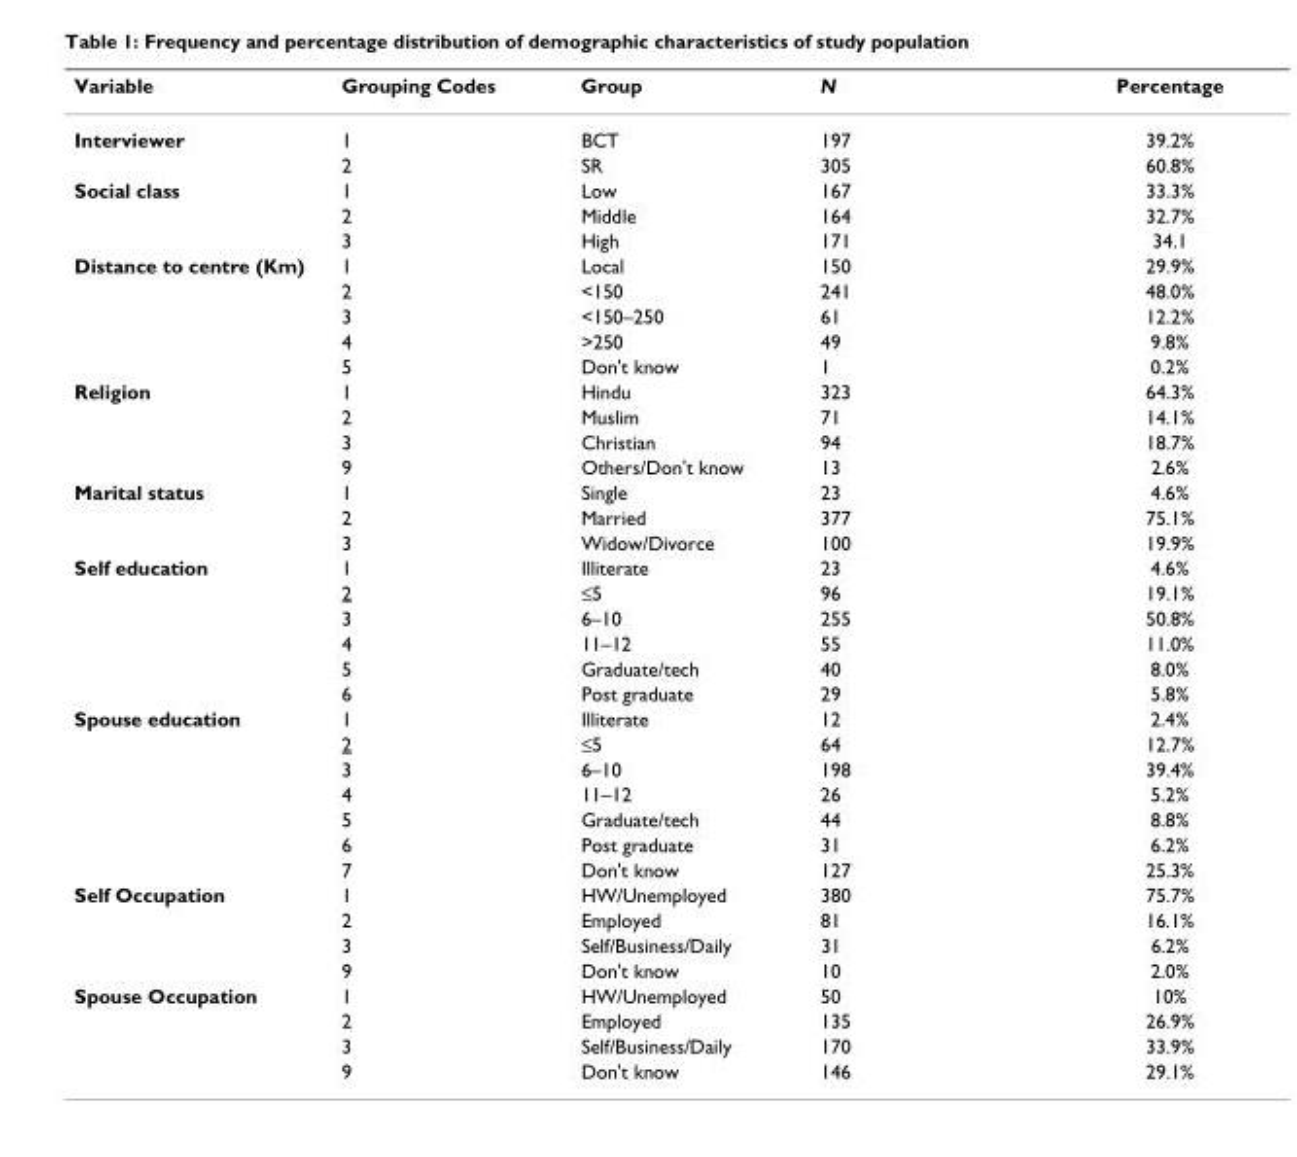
<table><thead><tr><td>Variable</td><td>Grouping Codes</td><td>Group</td><td>N</td><td>Percentage</td></tr></thead><tbody><tr><td rowspan="2">Interviewer</td><td>1</td><td>BCT</td><td>197</td><td>39.2%</td></tr><tr><td>2</td><td>SR</td><td>305</td><td>60.8%</td></tr><tr><td rowspan="3">Social class</td><td>1</td><td>Low</td><td>167</td><td>33.3%</td></tr><tr><td>2</td><td>Middle</td><td>164</td><td>32.7%</td></tr><tr><td>3</td><td>High</td><td>171</td><td>34.1</td></tr><tr><td rowspan="5">Distance to centre (Km)</td><td>1</td><td>Local</td><td>150</td><td>29.9%</td></tr><tr><td>2</td><td>&lt;150</td><td>241</td><td>48.0%</td></tr><tr><td>3</td><td>&lt;150–250</td><td>61</td><td>12.2%</td></tr><tr><td>4</td><td>&gt;250</td><td>49</td><td>9.8%</td></tr><tr><td>5</td><td>Don&#x27;t know</td><td>1</td><td>0.2%</td></tr><tr><td rowspan="4">Religion</td><td>1</td><td>Hindu</td><td>323</td><td>64.3%</td></tr><tr><td>2</td><td>Muslim</td><td>71</td><td>14.1%</td></tr><tr><td>3</td><td>Christian</td><td>94</td><td>18.7%</td></tr><tr><td>9</td><td>Others/Don&#x27;t know</td><td>13</td><td>2.6%</td></tr><tr><td rowspan="3">Marital status</td><td>1</td><td>Single</td><td>23</td><td>4.6%</td></tr><tr><td>2</td><td>Married</td><td>377</td><td>75.1%</td></tr><tr><td>3</td><td>Widow/Divorce</td><td>100</td><td>19.9%</td></tr><tr><td rowspan="6">Self education</td><td>1</td><td>Illiterate</td><td>23</td><td>4.6%</td></tr><tr><td>2</td><td>≤5</td><td>96</td><td>19.1%</td></tr><tr><td>3</td><td>6–10</td><td>255</td><td>50.8%</td></tr><tr><td>4</td><td>11–12</td><td>55</td><td>11.0%</td></tr><tr><td>5</td><td>Graduate/tech</td><td>40</td><td>8.0%</td></tr><tr><td>6</td><td>Post graduate</td><td>29</td><td>5.8%</td></tr><tr><td rowspan="7">Spouse education</td><td>1</td><td>Illiterate</td><td>12</td><td>2.4%</td></tr><tr><td>2</td><td>≤5</td><td>64</td><td>12.7%</td></tr><tr><td>3</td><td>6–10</td><td>198</td><td>39.4%</td></tr><tr><td>4</td><td>11–12</td><td>26</td><td>5.2%</td></tr><tr><td>5</td><td>Graduate/tech</td><td>44</td><td>8.8%</td></tr><tr><td>6</td><td>Post graduate</td><td>31</td><td>6.2%</td></tr><tr><td>7</td><td>Don&#x27;t know</td><td>127</td><td>25.3%</td></tr><tr><td rowspan="4">Self Occupation</td><td>1</td><td>HW/Unemployed</td><td>380</td><td>75.7%</td></tr><tr><td>2</td><td>Employed</td><td>81</td><td>16.1%</td></tr><tr><td>3</td><td>Self/Business/Daily</td><td>31</td><td>6.2%</td></tr><tr><td>9</td><td>Don&#x27;t know</td><td>10</td><td>2.0%</td></tr><tr><td rowspan="4">Spouse Occupation</td><td>1</td><td>HW/Unemployed</td><td>50</td><td>10%</td></tr><tr><td>2</td><td>Employed</td><td>135</td><td>26.9%</td></tr><tr><td>3</td><td>Self/Business/Daily</td><td>170</td><td>33.9%</td></tr><tr><td>9</td><td>Don&#x27;t know</td><td>146</td><td>29.1%</td></tr></tbody></table>